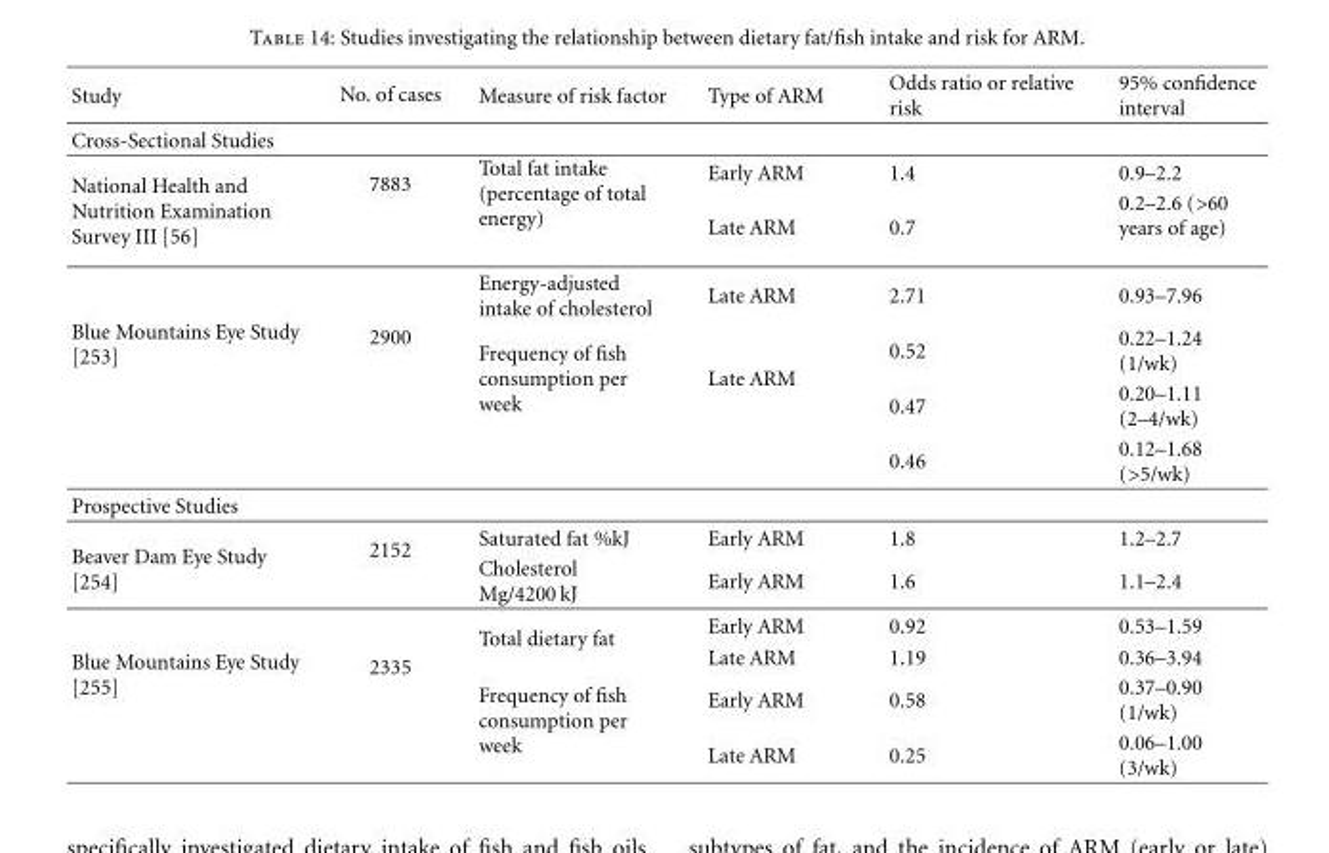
<table><thead><tr><td>Study</td><td>No. of cases</td><td>Measure of risk factor</td><td>Type of ARM</td><td>Odds ratio or relative risk</td><td>95% confidence interval</td></tr></thead><tbody><tr><td colspan="6">Cross-Sectional Studies</td></tr><tr><td rowspan="2">National Health and Nutrition Examination Survey III [56]</td><td rowspan="2">7883</td><td rowspan="2">Total fat intake (percentage of total energy)</td><td>Early ARM</td><td>1.4</td><td>0.9–2.2</td></tr><tr><td>Late ARM</td><td>0.7</td><td>0.2–2.6 (&gt;60 years of age)</td></tr><tr><td rowspan="4">Blue Mountains Eye Study [253]</td><td rowspan="4">2900</td><td>Energy-adjusted intake of cholesterol</td><td>Late ARM</td><td>2.71</td><td>0.93–7.96</td></tr><tr><td rowspan="3">Frequency of fish consumption per week</td><td rowspan="3">Late ARM</td><td>0.52</td><td>0.22–1.24 (1/wk)</td></tr><tr><td>0.47</td><td>0.20–1.11 (2–4/wk)</td></tr><tr><td>0.46</td><td>0.12–1.68 (&gt;5/wk)</td></tr><tr><td colspan="6">Prospective Studies</td></tr><tr><td rowspan="2">Beaver Dam Eye Study [254]</td><td rowspan="2">2152</td><td>Saturated fat %kJ</td><td>Early ARM</td><td>1.8</td><td>1.2–2.7</td></tr><tr><td>Cholesterol Mg/4200 kJ</td><td>Early ARM</td><td>1.6</td><td>1.1–2.4</td></tr><tr><td rowspan="4">Blue Mountains Eye Study [255]</td><td rowspan="4">2335</td><td rowspan="2">Total dietary fat</td><td>Early ARM</td><td>0.92</td><td>0.53–1.59</td></tr><tr><td>Late ARM</td><td>1.19</td><td>0.36–3.94</td></tr><tr><td rowspan="2">Frequency of fish consumption per week</td><td>Early ARM</td><td>0.58</td><td>0.37–0.90 (1/wk)</td></tr><tr><td>Late ARM</td><td>0.25</td><td>0.06–1.00 (3/wk)</td></tr></tbody></table>